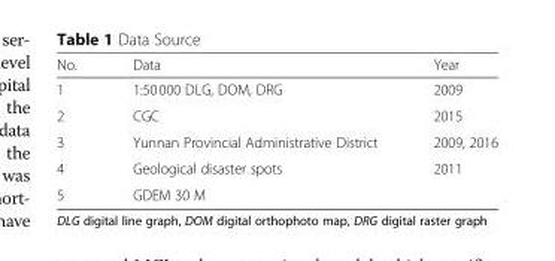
<table><thead><tr><td>No.</td><td>Data</td><td>Year</td></tr></thead><tbody><tr><td>1</td><td>1:50000 DLG, DOM, DRG</td><td>2009</td></tr><tr><td>2</td><td>CGC</td><td>2015</td></tr><tr><td>3</td><td>Yunnan Provincial Administrative District</td><td>2009, 2016</td></tr><tr><td>4</td><td>Geological disaster spots</td><td>2011</td></tr><tr><td>5</td><td>GDEM 30 M</td><td></td></tr></tbody></table>